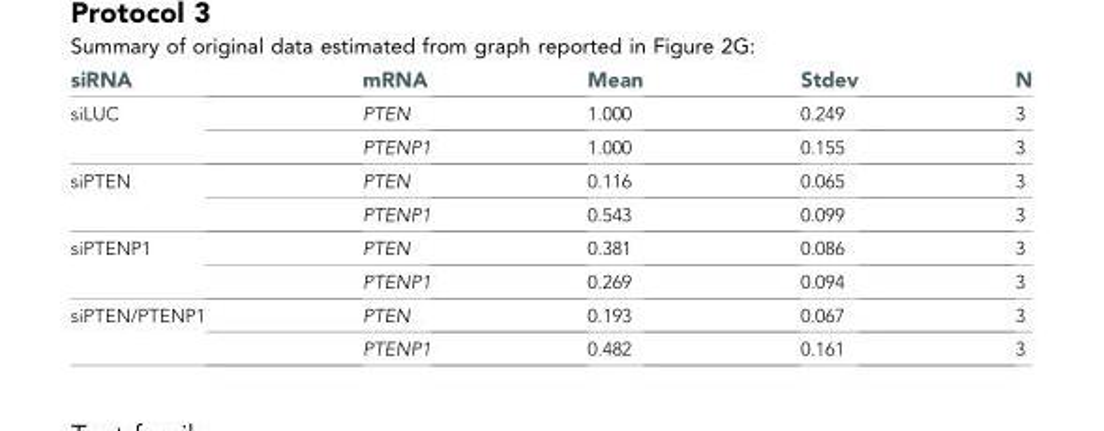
<table><thead><tr><td>siRNA</td><td>mRNA</td><td>Mean</td><td>Stdev</td><td>N</td></tr></thead><tbody><tr><td rowspan="2">siLUC</td><td>PTEN</td><td>1.000</td><td>0.249</td><td>3</td></tr><tr><td>PTENP1</td><td>1.000</td><td>0.155</td><td>3</td></tr><tr><td rowspan="2">siPTEN</td><td>PTEN</td><td>0.116</td><td>0.065</td><td>3</td></tr><tr><td>PTENP1</td><td>0.543</td><td>0.099</td><td>3</td></tr><tr><td rowspan="2">siPTENP1</td><td>PTEN</td><td>0.381</td><td>0.086</td><td>3</td></tr><tr><td>PTENP1</td><td>0.269</td><td>0.094</td><td>3</td></tr><tr><td rowspan="2">siPTEN/PTENP1</td><td>PTEN</td><td>0.193</td><td>0.067</td><td>3</td></tr><tr><td>PTENP1</td><td>0.482</td><td>0.161</td><td>3</td></tr></tbody></table>